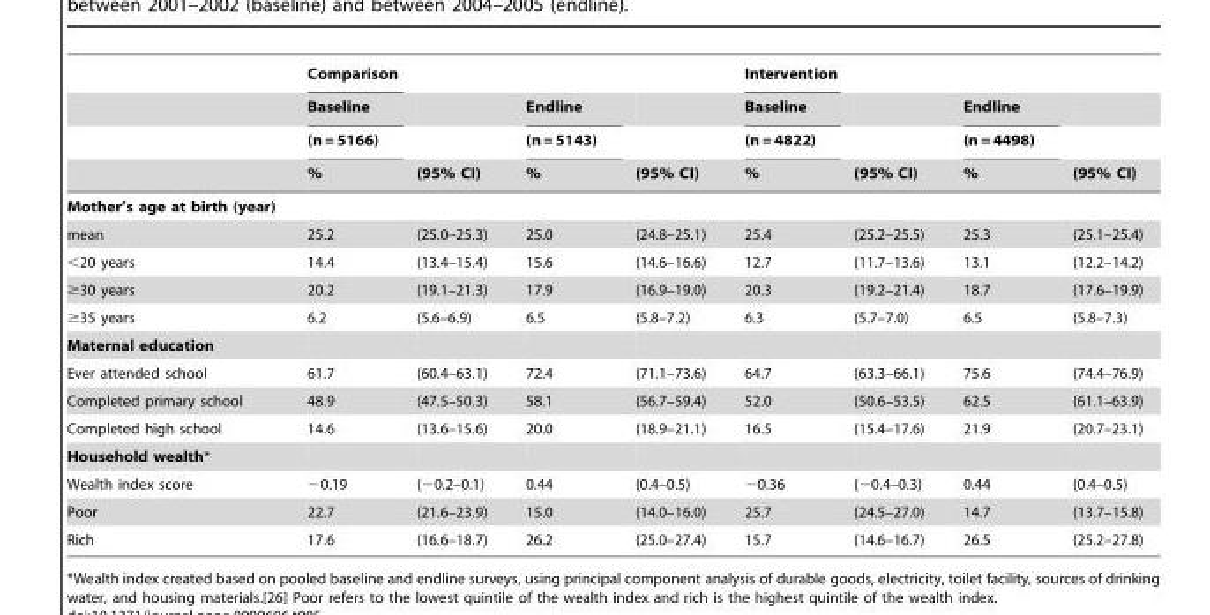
<table><thead><tr><td rowspan="4"></td><td rowspan="4">Comparison Baseline (n = 5166) %</td><td rowspan="4">(95% CI)</td><td rowspan="4">Endline (n = 5143) %</td><td rowspan="4">(95% CI)</td><td rowspan="4">Intervention Baseline (n = 4822) %</td><td rowspan="4">(95% CI)</td><td rowspan="4">Endline (n = 4498) %</td><td rowspan="4">(95% CI)</td></tr><tr></tr><tr></tr><tr></tr></thead><tbody><tr><td colspan="9">Mother’s age at birth (year)</td></tr><tr><td>mean</td><td>25.2</td><td>(25.0–25.3)</td><td>25.0</td><td>(24.8–25.1)</td><td>25.4</td><td>(25.2–25.5)</td><td>25.3</td><td>(25.1–25.4)</td></tr><tr><td>&lt;20 years</td><td>14.4</td><td>(13.4–15.4)</td><td>15.6</td><td>(14.6–16.6)</td><td>12.7</td><td>(11.7–13.6)</td><td>13.1</td><td>(12.2–14.2)</td></tr><tr><td>≥30 years</td><td>20.2</td><td>(19.1–21.3)</td><td>17.9</td><td>(16.9–19.0)</td><td>20.3</td><td>(19.2–21.4)</td><td>18.7</td><td>(17.6–19.9)</td></tr><tr><td>≥35 years</td><td>6.2</td><td>(5.6–6.9)</td><td>6.5</td><td>(5.8–7.2)</td><td>6.3</td><td>(5.7–7.0)</td><td>6.5</td><td>(5.8–7.3)</td></tr><tr><td colspan="9">Maternal education</td></tr><tr><td>Ever attended school</td><td>61.7</td><td>(60.4–63.1)</td><td>72.4</td><td>(71.1–73.6)</td><td>64.7</td><td>(63.3–66.1)</td><td>75.6</td><td>(74.4–76.9)</td></tr><tr><td>Completed primary school</td><td>48.9</td><td>(47.5–50.3)</td><td>58.1</td><td>(56.7–59.4)</td><td>52.0</td><td>(50.6–53.5)</td><td>62.5</td><td>(61.1–63.9)</td></tr><tr><td>Completed high school</td><td>14.6</td><td>(13.6–15.6)</td><td>20.0</td><td>(18.9–21.1)</td><td>16.5</td><td>(15.4–17.6)</td><td>21.9</td><td>(20.7–23.1)</td></tr><tr><td colspan="9">Household wealth*</td></tr><tr><td>Wealth index score</td><td>−0.19</td><td>(−0.2–0.1)</td><td>0.44</td><td>(0.4–0.5)</td><td>−0.36</td><td>(−0.4–0.3)</td><td>0.44</td><td>(0.4–0.5)</td></tr><tr><td>Poor</td><td>22.7</td><td>(21.6–23.9)</td><td>15.0</td><td>(14.0–16.0)</td><td>25.7</td><td>(24.5–27.0)</td><td>14.7</td><td>(13.7–15.8)</td></tr><tr><td>Rich</td><td>17.6</td><td>(16.6–18.7)</td><td>26.2</td><td>(25.0–27.4)</td><td>15.7</td><td>(14.6–16.7)</td><td>26.5</td><td>(25.2–27.8)</td></tr></tbody></table>